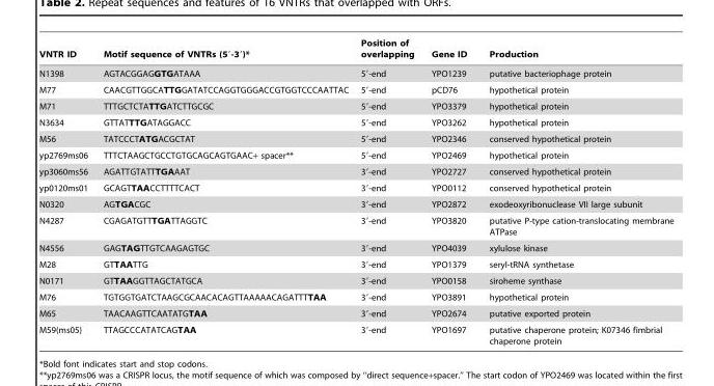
<table><thead><tr><td>VNTR ID</td><td>Motif sequence of VNTRs (5′-3′)*</td><td>Position of overlapping</td><td>Gene ID</td><td>Production</td></tr></thead><tbody><tr><td>N1398</td><td>AGTACGGAGGTGATAAA</td><td>5′-end</td><td>YPO1239</td><td>putative bacteriophage protein</td></tr><tr><td>M77</td><td>CAACGTTGGCATTGGATATCCAGGTGGGACCGTGGTCCCAATTAC</td><td>5′-end</td><td>pCD76</td><td>hypothetical protein</td></tr><tr><td>M71</td><td>TTTGCTCTATTGATCTTGCGC</td><td>5′-end</td><td>YPO3379</td><td>hypothetical protein</td></tr><tr><td>N3634</td><td>GTTATTTGATAGGACC</td><td>5′-end</td><td>YPO3262</td><td>hypothetical protein</td></tr><tr><td>M56</td><td>TATCCCTATGACGCTAT</td><td>5′-end</td><td>YPO2346</td><td>conserved hypothetical protein</td></tr><tr><td>yp2769ms06</td><td>TTTCTAAGCTGCCTGTGCAGCAGTGAAC+ spacer**</td><td>5′-end</td><td>YPO2469</td><td>hypothetical protein</td></tr><tr><td>yp3060ms56</td><td>AGATTGTATTTGAAAT</td><td>3′-end</td><td>YPO2727</td><td>conserved hypothetical protein</td></tr><tr><td>yp0120ms01</td><td>GCAGTTAACCTTTTCACT</td><td>3′-end</td><td>YPO0112</td><td>conserved hypothetical protein</td></tr><tr><td>N0320</td><td>AGTGACGC</td><td>3′-end</td><td>YPO2872</td><td>exodeoxyribonuclease VII large subunit</td></tr><tr><td>N4287</td><td>CGAGATGTTTGATTAGGTC</td><td>3′-end</td><td>YPO3820</td><td>putative P-type cation-translocating membrane ATPase</td></tr><tr><td>N4556</td><td>GAGTAGTTGTCAAGAGTGC</td><td>3′-end</td><td>YPO4039</td><td>xylulose kinase</td></tr><tr><td>M28</td><td>GTTAATTG</td><td>3′-end</td><td>YPO1379</td><td>seryl-tRNA synthetase</td></tr><tr><td>N0171</td><td>GTTAAGGTTAGCTATGCA</td><td>3′-end</td><td>YPO0158</td><td>siroheme synthase</td></tr><tr><td>M76</td><td>TGTGGTGATCTAAGCGCAACACAGTTAAAAACAGATTTTAA</td><td>3′-end</td><td>YPO3891</td><td>hypothetical protein</td></tr><tr><td>M65</td><td>TAACAAGTTCAATATGTAA</td><td>3′-end</td><td>YPO2674</td><td>putative exported protein</td></tr><tr><td>M59(ms05)</td><td>TTAGCCCATATCAGTAA</td><td>3′-end</td><td>YPO1697</td><td>putative chaperone protein; K07346 fimbrial chaperone protein</td></tr></tbody></table>